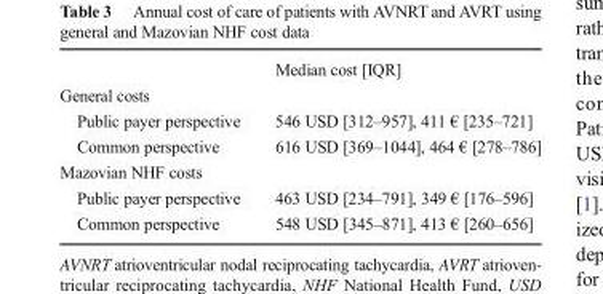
<table><thead><tr><td></td><td>Median cost [IQR]</td></tr></thead><tbody><tr><td colspan="2">General costs</td></tr><tr><td>Public payer perspective</td><td>546 USD [312–957], 411 € [235–721]</td></tr><tr><td>Common perspective</td><td>616 USD [369–1044], 464 € [278–786]</td></tr><tr><td colspan="2">Mazovian NHF costs</td></tr><tr><td>Public payer perspective</td><td>463 USD [234–791], 349 € [176–596]</td></tr><tr><td>Common perspective</td><td>548 USD [345–871], 413 € [260–656]</td></tr></tbody></table>